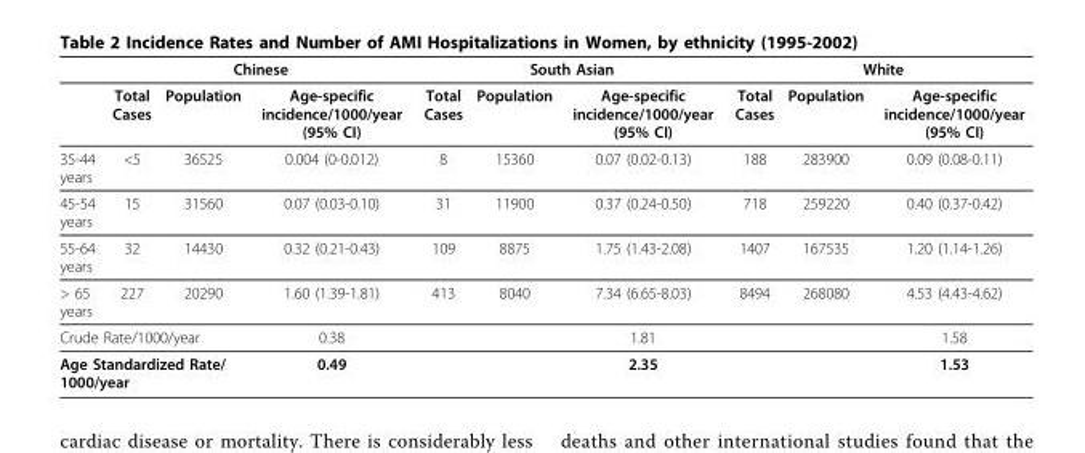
<table><thead><tr><td rowspan="2"></td><td colspan="3">Chinese</td><td colspan="3">South Asian</td><td colspan="3">White</td></tr><tr><td>Total Cases</td><td>Population</td><td>Age-specific incidence/1000/year (95% CI)</td><td>Total Cases</td><td>Population</td><td>Age-specific incidence/1000/year (95% CI)</td><td>Total Cases</td><td>Population</td><td>Age-specific incidence/1000/year (95% CI)</td></tr></thead><tbody><tr><td>35-44 years</td><td>&lt;5</td><td>36525</td><td>0.004 (0-0.012)</td><td>8</td><td>15360</td><td>0.07 (0.02-0.13)</td><td>188</td><td>283900</td><td>0.09 (0.08-0.11)</td></tr><tr><td>45-54 years</td><td>15</td><td>31560</td><td>0.07 (0.03-0.10)</td><td>31</td><td>11900</td><td>0.37 (0.24-0.50)</td><td>718</td><td>259220</td><td>0.40 (0.37-0.42)</td></tr><tr><td>55-64 years</td><td>32</td><td>14430</td><td>0.32 (0.21-0.43)</td><td>109</td><td>8875</td><td>1.75 (1.43-2.08)</td><td>1407</td><td>167535</td><td>1.20 (1.14-1.26)</td></tr><tr><td>&gt; 65 years</td><td>227</td><td>20290</td><td>1.60 (1.39-1.81)</td><td>413</td><td>8040</td><td>7.34 (6.65-8.03)</td><td>8494</td><td>268080</td><td>4.53 (4.43-4.62)</td></tr><tr><td colspan="3">Crude Rate/1000/year</td><td>0.38</td><td></td><td></td><td>1.81</td><td></td><td></td><td>1.58</td></tr><tr><td colspan="3">Age Standardized Rate/ 1000/year</td><td>0.49</td><td></td><td></td><td>2.35</td><td></td><td></td><td>1.53</td></tr></tbody></table>